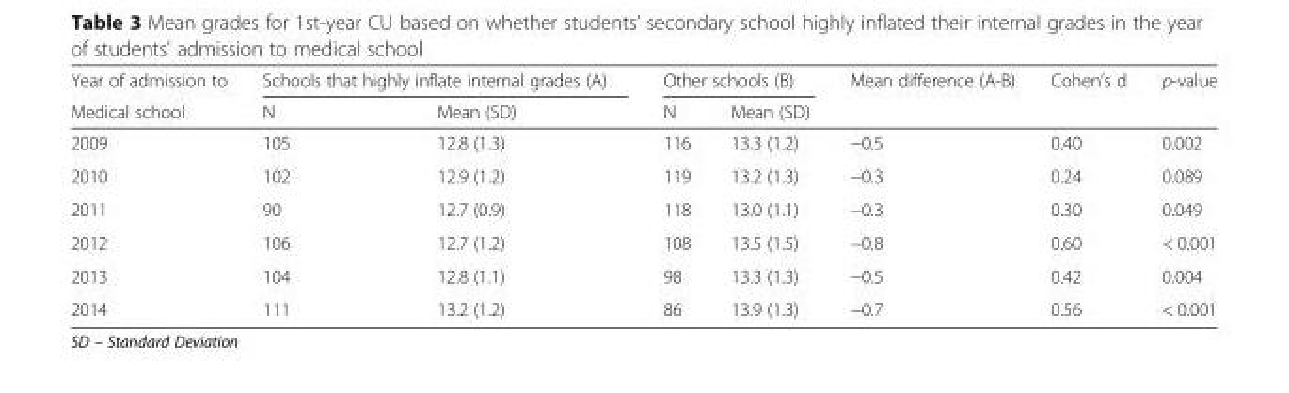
<table><thead><tr><td rowspan="2">Year of admission to Medical school</td><td colspan="2">Schools that highly inflate internal grades (A)</td><td colspan="2">Other schools (B)</td><td rowspan="2">Mean difference (A-B)</td><td rowspan="2">Cohen’s d</td><td rowspan="2">p-value</td></tr><tr><td>N</td><td>Mean (SD)</td><td>N</td><td>Mean (SD)</td></tr></thead><tbody><tr><td>2009</td><td>105</td><td>12.8 (1.3)</td><td>116</td><td>13.3 (1.2)</td><td>−0.5</td><td>0.40</td><td>0.002</td></tr><tr><td>2010</td><td>102</td><td>12.9 (1.2)</td><td>119</td><td>13.2 (1.3)</td><td>−0.3</td><td>0.24</td><td>0.089</td></tr><tr><td>2011</td><td>90</td><td>12.7 (0.9)</td><td>118</td><td>13.0 (1.1)</td><td>−0.3</td><td>0.30</td><td>0.049</td></tr><tr><td>2012</td><td>106</td><td>12.7 (1.2)</td><td>108</td><td>13.5 (1.5)</td><td>−0.8</td><td>0.60</td><td>&lt; 0.001</td></tr><tr><td>2013</td><td>104</td><td>12.8 (1.1)</td><td>98</td><td>13.3 (1.3)</td><td>−0.5</td><td>0.42</td><td>0.004</td></tr><tr><td>2014</td><td>111</td><td>13.2 (1.2)</td><td>86</td><td>13.9 (1.3)</td><td>−0.7</td><td>0.56</td><td>&lt; 0.001</td></tr></tbody></table>